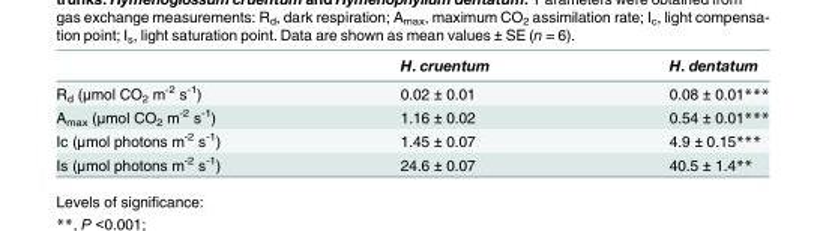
<table><thead><tr><td></td><td>H. cruentum</td><td>H. dentatum</td></tr></thead><tbody><tr><td>R<sub>d</sub> (μmol CO<sub>2</sub> m<sup>-2</sup> s<sup>-1</sup>)</td><td>0.02 ± 0.01</td><td>0.08 ± 0.01***</td></tr><tr><td>A<sub>max</sub> (μmol CO<sub>2</sub> m<sup>-2</sup> s<sup>-1</sup>)</td><td>1.16 ± 0.02</td><td>0.54 ± 0.01***</td></tr><tr><td>Ic (μmol photons m<sup>-2</sup> s<sup>-1</sup>)</td><td>1.45 ± 0.07</td><td>4.9 ± 0.15***</td></tr><tr><td>Is (μmol photons m<sup>-2</sup> s<sup>-1</sup>)</td><td>24.6 ± 0.07</td><td>40.5 ± 1.4**</td></tr></tbody></table>